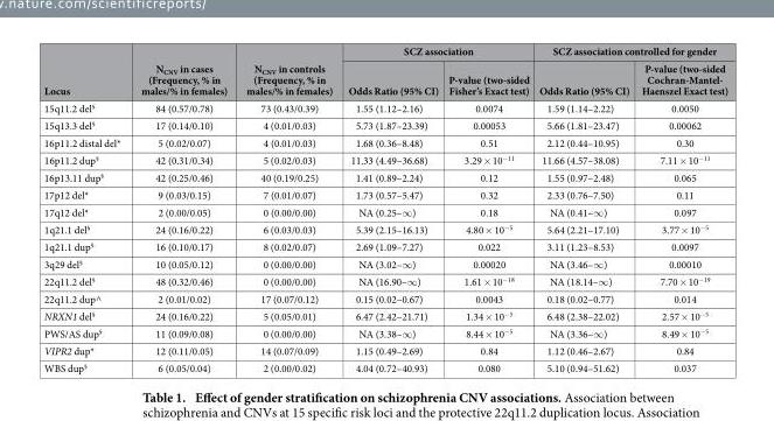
<table><thead><tr><td rowspan="2">Locus</td><td rowspan="2">N<sub>CNV</sub> in cases (Frequency, % in males/% in females)</td><td rowspan="2">N<sub>CNV</sub> in controls (Frequency, % in males/% in females)</td><td colspan="2">SCZ association</td><td colspan="2">SCZ association controlled for gender</td></tr><tr><td>Odds Ratio (95% CI)</td><td>P-value (two-sided Fisher’s Exact test)</td><td>Odds Ratio (95% CI)</td><td>P-value (two-sided Cochran-Mantel- Haenszel Exact test)</td></tr></thead><tbody><tr><td>15q11.2 del§</td><td>84 (0.57/0.78)</td><td>73 (0.43/0.39)</td><td>1.55 (1.12–2.16)</td><td>0.0074</td><td>1.59 (1.14–2.22)</td><td>0.0050</td></tr><tr><td>15q13.3 del§</td><td>17 (0.14/0.10)</td><td>4 (0.01/0.03)</td><td>5.73 (1.87–23.39)</td><td>0.00053</td><td>5.66 (1.81–23.47)</td><td>0.00062</td></tr><tr><td>16p11.2 distal del*</td><td>5 (0.02/0.07)</td><td>4 (0.01/0.03)</td><td>1.68 (0.36–8.48)</td><td>0.51</td><td>2.12 (0.44–10.95)</td><td>0.30</td></tr><tr><td>16p11.2 dup§</td><td>42 (0.31/0.34)</td><td>5 (0.02/0.03)</td><td>11.33 (4.49–36.68)</td><td>3.29 × 10<sup>−11</sup></td><td>11.66 (4.57–38.08)</td><td>7.11 × 10<sup>−11</sup></td></tr><tr><td>16p13.11 dup§</td><td>42 (0.25/0.46)</td><td>40 (0.19/0.25)</td><td>1.41 (0.89–2.24)</td><td>0.12</td><td>1.55 (0.97–2.48)</td><td>0.065</td></tr><tr><td>17p12 del*</td><td>9 (0.03/0.15)</td><td>7 (0.01/0.07)</td><td>1.73 (0.57–5.47)</td><td>0.32</td><td>2.33 (0.76–7.50)</td><td>0.11</td></tr><tr><td>17q12 del*</td><td>2 (0.00/0.05)</td><td>0 (0.00/0.00)</td><td>NA (0.25–∞ )</td><td>0.18</td><td>NA (0.41–∞ )</td><td>0.097</td></tr><tr><td>1q21.1 del§</td><td>24 (0.16/0.22)</td><td>6 (0.03/0.03)</td><td>5.39 (2.15–16.13)</td><td>4.80 × 10<sup>−5</sup></td><td>5.64 (2.21–17.10)</td><td>3.77 × 10<sup>−5</sup></td></tr><tr><td>1q21.1 dup§</td><td>16 (0.10/0.17)</td><td>8 (0.02/0.07)</td><td>2.69 (1.09–7.27)</td><td>0.022</td><td>3.11 (1.23–8.53)</td><td>0.0097</td></tr><tr><td>3q29 del§</td><td>10 (0.05/0.12)</td><td>0 (0.00/0.00)</td><td>NA (3.02–∞ )</td><td>0.00020</td><td>NA (3.46–∞ )</td><td>0.00010</td></tr><tr><td>22q11.2 del§</td><td>48 (0.32/0.46)</td><td>0 (0.00/0.00)</td><td>NA (16.90–∞ )</td><td>1.61 × 10<sup>−18</sup></td><td>NA (18.14–∞ )</td><td>7.70 × 10<sup>−19</sup></td></tr><tr><td>22q11.2 dup^</td><td>2 (0.01/0.02)</td><td>17 (0.07/0.12)</td><td>0.15 (0.02–0.67)</td><td>0.0043</td><td>0.18 (0.02–0.77)</td><td>0.014</td></tr><tr><td>NRXN1 del§</td><td>24 (0.16/0.22)</td><td>5 (0.05/0.01)</td><td>6.47 (2.42–21.71)</td><td>1.34 × 10<sup>−5</sup></td><td>6.48 (2.38–22.02)</td><td>2.57 × 10<sup>−5</sup></td></tr><tr><td>PWS/AS dup§</td><td>11 (0.09/0.08)</td><td>0 (0.00/0.00)</td><td>NA (3.38–∞ )</td><td>8.44 × 10<sup>−5</sup></td><td>NA (3.36–∞ )</td><td>8.49 × 10<sup>−5</sup></td></tr><tr><td>VIPR2 dup*</td><td>12 (0.11/0.05)</td><td>14 (0.07/0.09)</td><td>1.15 (0.49–2.69)</td><td>0.84</td><td>1.12 (0.46–2.67)</td><td>0.84</td></tr><tr><td>WBS dup§</td><td>6 (0.05/0.04)</td><td>2 (0.00/0.02)</td><td>4.04 (0.72–40.93)</td><td>0.080</td><td>5.10 (0.94–51.62)</td><td>0.037</td></tr></tbody></table>